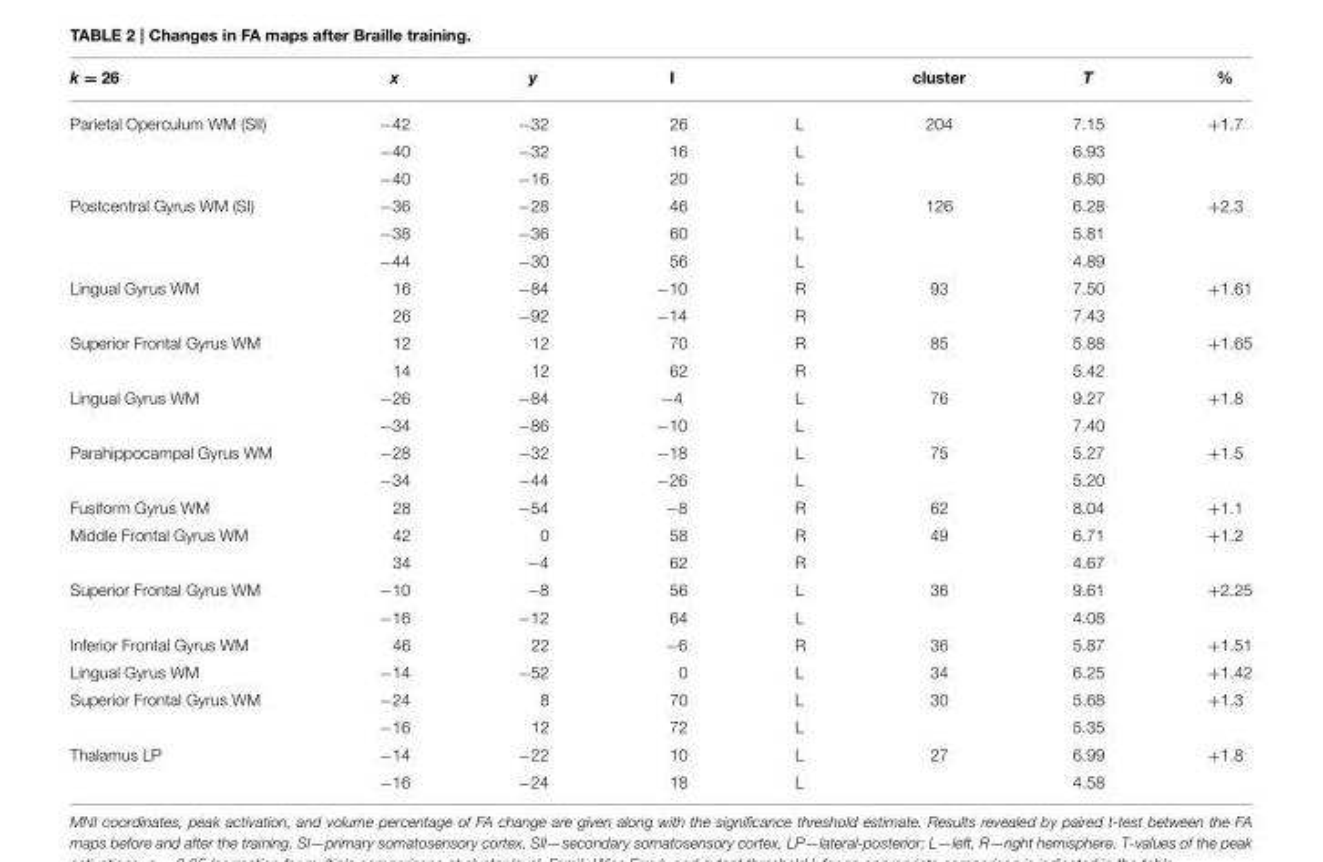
<table><thead><tr><td>k = 26</td><td>x</td><td>y</td><td>I</td><td></td><td>cluster</td><td>T</td><td>%</td></tr></thead><tbody><tr><td rowspan="3">Parietal Operculum WM (SII)</td><td>−42</td><td>−32</td><td>26</td><td>L</td><td>204</td><td>7.15</td><td>+1.7</td></tr><tr><td>−40</td><td>−32</td><td>16</td><td>L</td><td></td><td>6.93</td><td></td></tr><tr><td>−40</td><td>−16</td><td>20</td><td>L</td><td></td><td>6.80</td><td></td></tr><tr><td rowspan="3">Postcentral Gyrus WM (SI)</td><td>−36</td><td>−28</td><td>46</td><td>L</td><td>126</td><td>6.28</td><td>+2.3</td></tr><tr><td>−38</td><td>−36</td><td>60</td><td>L</td><td></td><td>5.81</td><td></td></tr><tr><td>−44</td><td>−30</td><td>56</td><td>L</td><td></td><td>4.89</td><td></td></tr><tr><td rowspan="2">Lingual Gyrus WM</td><td>16</td><td>−84</td><td>−10</td><td>R</td><td>93</td><td>7.50</td><td>+1.61</td></tr><tr><td>26</td><td>−92</td><td>−14</td><td>R</td><td></td><td>7.43</td><td></td></tr><tr><td rowspan="2">Superior Frontal Gyrus WM</td><td>12</td><td>12</td><td>70</td><td>R</td><td>85</td><td>5.88</td><td>+1.65</td></tr><tr><td>14</td><td>12</td><td>62</td><td>R</td><td></td><td>5.42</td><td></td></tr><tr><td rowspan="2">Lingual Gyrus WM</td><td>−26</td><td>−84</td><td>−4</td><td>L</td><td>76</td><td>9.27</td><td>+1.8</td></tr><tr><td>−34</td><td>−86</td><td>−10</td><td>L</td><td></td><td>7.40</td><td></td></tr><tr><td rowspan="2">Parahippocampal Gyrus WM</td><td>−28</td><td>−32</td><td>−18</td><td>L</td><td>75</td><td>5.27</td><td>+1.5</td></tr><tr><td>−34</td><td>−44</td><td>−26</td><td>L</td><td></td><td>5.20</td><td></td></tr><tr><td>Fusiform Gyrus WM</td><td>28</td><td>−54</td><td>−8</td><td>R</td><td>62</td><td>8.04</td><td>+1.1</td></tr><tr><td rowspan="2">Middle Frontal Gyrus WM</td><td>42</td><td>0</td><td>58</td><td>R</td><td>49</td><td>6.71</td><td>+1.2</td></tr><tr><td>34</td><td>−4</td><td>62</td><td>R</td><td></td><td>4.67</td><td></td></tr><tr><td rowspan="2">Superior Frontal Gyrus WM</td><td>−10</td><td>−8</td><td>56</td><td>L</td><td>36</td><td>9.61</td><td>+2.25</td></tr><tr><td>−16</td><td>−12</td><td>64</td><td>L</td><td></td><td>4.08</td><td></td></tr><tr><td>Inferior Frontal Gyrus WM</td><td>46</td><td>22</td><td>−6</td><td>R</td><td>36</td><td>5.87</td><td>+1.51</td></tr><tr><td>Lingual Gyrus WM</td><td>−14</td><td>−52</td><td>0</td><td>L</td><td>34</td><td>6.25</td><td>+1.42</td></tr><tr><td rowspan="2">Superior Frontal Gyrus WM</td><td>−24</td><td>8</td><td>70</td><td>L</td><td>30</td><td>5.68</td><td>+1.3</td></tr><tr><td>−16</td><td>12</td><td>72</td><td>L</td><td></td><td>5.35</td><td></td></tr><tr><td rowspan="2">Thalamus LP</td><td>−14</td><td>−22</td><td>10</td><td>L</td><td>27</td><td>6.99</td><td>+1.8</td></tr><tr><td>−16</td><td>−24</td><td>18</td><td>L</td><td></td><td>4.58</td><td></td></tr></tbody></table>